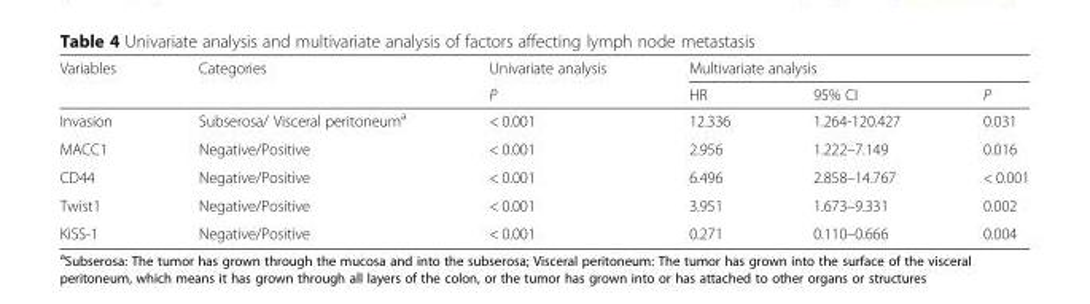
<table><thead><tr><td rowspan="2">Variables</td><td rowspan="2">Categories</td><td rowspan="2">Univariate analysis P</td><td colspan="3">Multivariate analysis</td></tr><tr><td>HR</td><td>95% CI</td><td>P</td></tr></thead><tbody><tr><td>Invasion</td><td>Subserosa/ Visceral peritoneum<sup>a</sup></td><td>&lt; 0.001</td><td>12.336</td><td>1.264-120.427</td><td>0.031</td></tr><tr><td>MACC1</td><td>Negative/Positive</td><td>&lt; 0.001</td><td>2.956</td><td>1.222–7.149</td><td>0.016</td></tr><tr><td>CD44</td><td>Negative/Positive</td><td>&lt; 0.001</td><td>6.496</td><td>2.858–14.767</td><td>&lt; 0.001</td></tr><tr><td>Twist1</td><td>Negative/Positive</td><td>&lt; 0.001</td><td>3.951</td><td>1.673–9.331</td><td>0.002</td></tr><tr><td>KiSS-1</td><td>Negative/Positive</td><td>&lt; 0.001</td><td>0.271</td><td>0.110–0.666</td><td>0.004</td></tr></tbody></table>